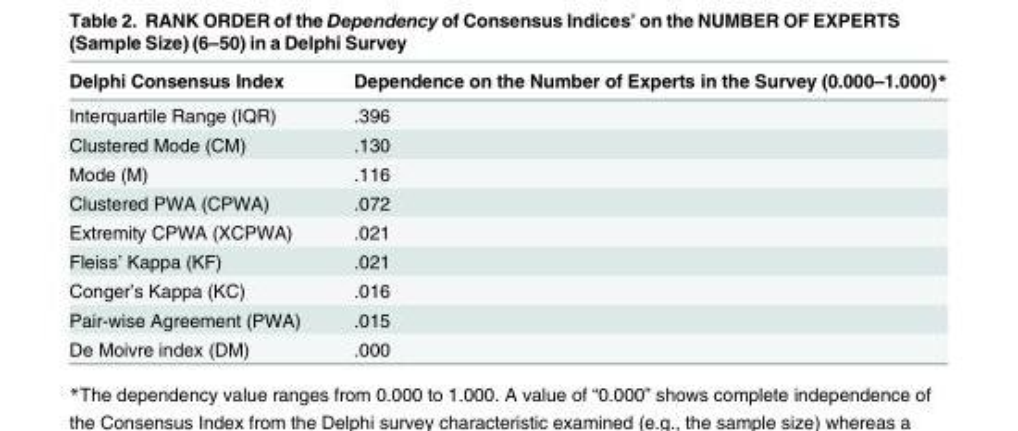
<table><thead><tr><td>Delphi Consensus Index</td><td>Dependence on the Number of Experts in the Survey (0.000–1.000)*</td></tr></thead><tbody><tr><td>Interquartile Range (IQR)</td><td>.396</td></tr><tr><td>Clustered Mode (CM)</td><td>.130</td></tr><tr><td>Mode (M)</td><td>.116</td></tr><tr><td>Clustered PWA (CPWA)</td><td>.072</td></tr><tr><td>Extremity CPWA (XCPWA)</td><td>.021</td></tr><tr><td>Fleiss’ Kappa (KF)</td><td>.021</td></tr><tr><td>Conger’s Kappa (KC)</td><td>.016</td></tr><tr><td>Pair-wise Agreement (PWA)</td><td>.015</td></tr><tr><td>De Moivre index (DM)</td><td>.000</td></tr></tbody></table>